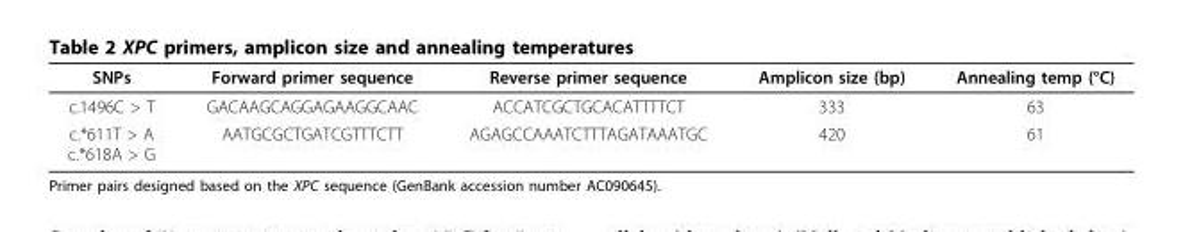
<table><thead><tr><td>SNPs</td><td>Forward primer sequence</td><td>Reverse primer sequence</td><td>Amplicon size (bp)</td><td>Annealing temp (°C)</td></tr></thead><tbody><tr><td>c.1496C &gt; T</td><td>GACAAGCAGGAGAAGGCAAC</td><td>ACCATCGCTGCACATTTTCT</td><td>333</td><td>63</td></tr><tr><td>c.*611T &gt; A c.*618A &gt; G</td><td>AATGCGCTGATCGTTTCTT</td><td>AGAGCCAAATCTTTAGATAAATGC</td><td>420</td><td>61</td></tr></tbody></table>